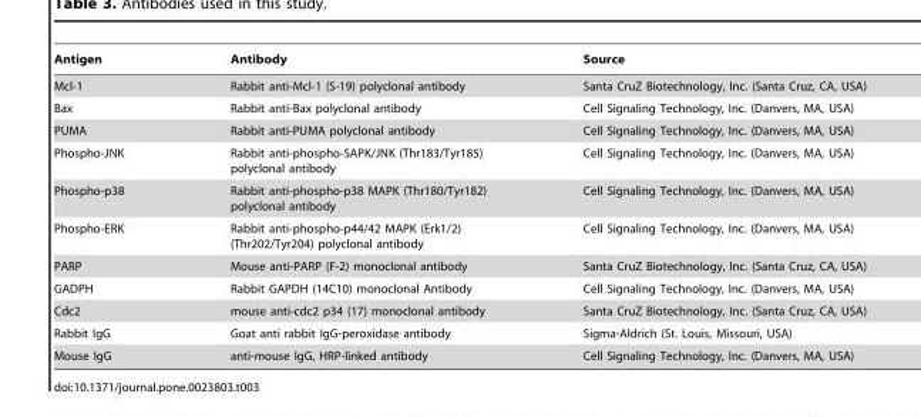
<table><thead><tr><td>Antigen</td><td>Antibody</td><td>Source</td></tr></thead><tbody><tr><td>Mcl-1</td><td>Rabbit anti-Mcl-1 (S-19) polyclonal antibody</td><td>Santa CruZ Biotechnology, Inc. (Santa Cruz, CA, USA)</td></tr><tr><td>Bax</td><td>Rabbit anti-Bax polyclonal antibody</td><td>Cell Signaling Technology, Inc. (Danvers, MA, USA)</td></tr><tr><td>PUMA</td><td>Rabbit anti-PUMA polyclonal antibody</td><td>Cell Signaling Technology, Inc. (Danvers, MA, USA)</td></tr><tr><td>Phospho-JNK</td><td>Rabbit anti-phospho-SAPK/JNK (Thr183/Tyr185) polyclonal antibody</td><td>Cell Signaling Technology, Inc. (Danvers, MA, USA)</td></tr><tr><td>Phospho-p38</td><td>Rabbit anti-phospho-p38 MAPK (Thr180/Tyr182) polyclonal antibody</td><td>Cell Signaling Technology, Inc. (Danvers, MA, USA)</td></tr><tr><td>Phospho-ERK</td><td>Rabbit anti-phospho-p44/42 MAPK (Erk1/2) (Thr202/Tyr204) polyclonal antibody</td><td>Cell Signaling Technology, Inc. (Danvers, MA, USA)</td></tr><tr><td>PARP</td><td>Mouse anti-PARP (F-2) monoclonal antibody</td><td>Santa CruZ Biotechnology, Inc. (Santa Cruz, CA, USA)</td></tr><tr><td>GADPH</td><td>Rabbit GAPDH (14C10) monoclonal Antibody</td><td>Cell Signaling Technology, Inc. (Danvers, MA, USA)</td></tr><tr><td>Cdc2</td><td>mouse anti-cdc2 p34 (17) monoclonal antibody</td><td>Santa CruZ Biotechnology, Inc. (Santa Cruz, CA, USA)</td></tr><tr><td>Rabbit IgG</td><td>Goat anti rabbit IgG-peroxidase antibody</td><td>Sigma-Aldrich (St. Louis, Missouri, USA)</td></tr><tr><td>Mouse IgG</td><td>anti-mouse IgG, HRP-linked antibody</td><td>Cell Signaling Technology, Inc. (Danvers, MA, USA)</td></tr></tbody></table>